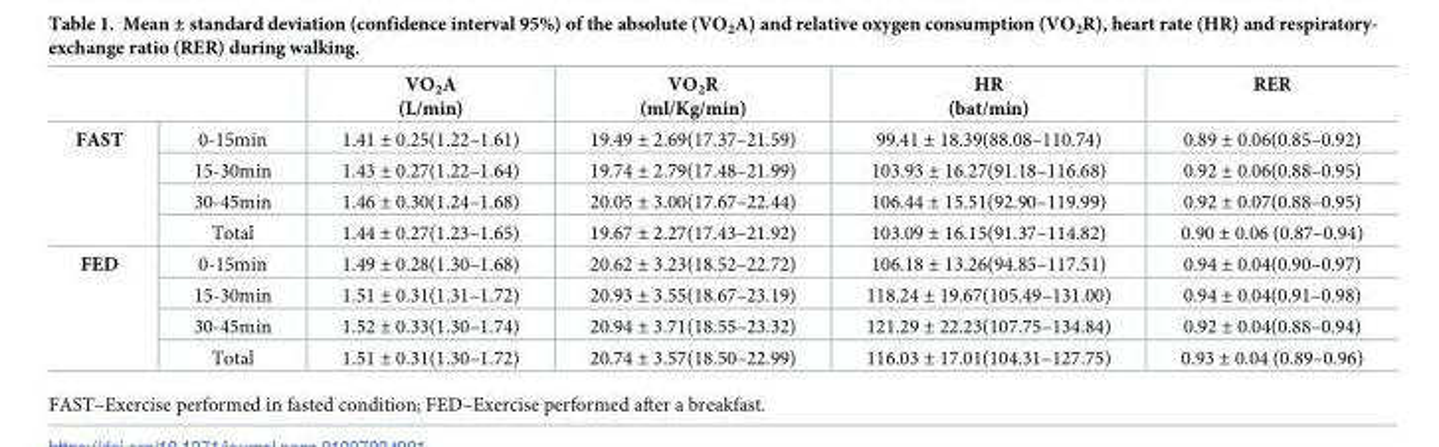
<table><thead><tr><td></td><td></td><td>VO<sub>2</sub>A (L/min)</td><td>VO<sub>2</sub>R (ml/Kg/min)</td><td>HR (bat/min)</td><td>RER</td></tr></thead><tbody><tr><td rowspan="4">FAST</td><td>0-15min</td><td>1.41 ± 0.25(1.22–1.61)</td><td>19.49 ± 2.69(17.37–21.59)</td><td>99.41 ± 18.39(88.08–110.74)</td><td>0.89 ± 0.06(0.85–0.92)</td></tr><tr><td>15-30min</td><td>1.43 ± 0.27(1.22–1.64)</td><td>19.74 ± 2.79(17.48–21.99)</td><td>103.93 ± 16.27(91.18–116.68)</td><td>0.92 ± 0.06(0.88–0.95)</td></tr><tr><td>30-45min</td><td>1.46 ± 0.30(1.24–1.68)</td><td>20.05 ± 3.00(17.67–22.44)</td><td>106.44 ± 15.51(92.90–119.99)</td><td>0.92 ± 0.07(0.88–0.95)</td></tr><tr><td>Total</td><td>1.44 ± 0.27(1.23–1.65)</td><td>19.67 ± 2.27(17.43–21.92)</td><td>103.09 ± 16.15(91.37–114.82)</td><td>0.90 ± 0.06 (0.87–0.94)</td></tr><tr><td rowspan="4">FED</td><td>0-15min</td><td>1.49 ± 0.28(1.30–1.68)</td><td>20.62 ± 3.23(18.52–22.72)</td><td>106.18 ± 13.26(94.85–117.51)</td><td>0.94 ± 0.04(0.90–0.97)</td></tr><tr><td>15-30min</td><td>1.51 ± 0.31(1.31–1.72)</td><td>20.93 ± 3.55(18.67–23.19)</td><td>118.24 ± 19.67(105.49–131.00)</td><td>0.94 ± 0.04(0.91–0.98)</td></tr><tr><td>30-45min</td><td>1.52 ± 0.33(1.30–1.74)</td><td>20.94 ± 3.71(18.55–23.32)</td><td>121.29 ± 22.23(107.75–134.84)</td><td>0.92 ± 0.04(0.88–0.94)</td></tr><tr><td>Total</td><td>1.51 ± 0.31(1.30–1.72)</td><td>20.74 ± 3.57(18.50–22.99)</td><td>116.03 ± 17.01(104.31–127.75)</td><td>0.93 ± 0.04 (0.89–0.96)</td></tr></tbody></table>